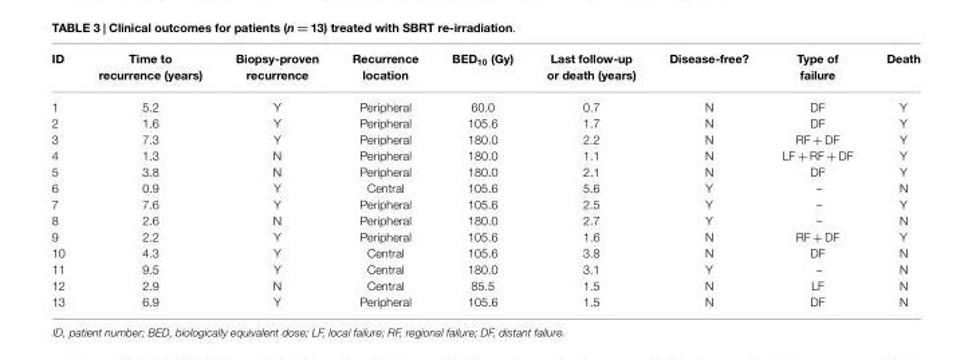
<table><thead><tr><td>ID</td><td>Time to recurrence (years)</td><td>Biopsy-proven recurrence</td><td>Recurrence location</td><td>BED<sub>10</sub> (Gy)</td><td>Last follow-up or death (years)</td><td>Disease-free?</td><td>Type of failure</td><td>Death</td></tr></thead><tbody><tr><td>1</td><td>5.2</td><td>Y</td><td>Peripheral</td><td>60.0</td><td>0.7</td><td>N</td><td>DF</td><td>Y</td></tr><tr><td>2</td><td>1.6</td><td>Y</td><td>Peripheral</td><td>105.6</td><td>1.7</td><td>N</td><td>DF</td><td>Y</td></tr><tr><td>3</td><td>7.3</td><td>Y</td><td>Peripheral</td><td>180.0</td><td>2.2</td><td>N</td><td>RF + DF</td><td>Y</td></tr><tr><td>4</td><td>1.3</td><td>N</td><td>Peripheral</td><td>180.0</td><td>1.1</td><td>N</td><td>LF + RF + DF</td><td>Y</td></tr><tr><td>5</td><td>3.8</td><td>N</td><td>Peripheral</td><td>180.0</td><td>2.1</td><td>N</td><td>DF</td><td>Y</td></tr><tr><td>6</td><td>0.9</td><td>Y</td><td>Central</td><td>105.6</td><td>5.6</td><td>Y</td><td>–</td><td>N</td></tr><tr><td>7</td><td>7.6</td><td>Y</td><td>Peripheral</td><td>105.6</td><td>2.5</td><td>Y</td><td>–</td><td>Y</td></tr><tr><td>8</td><td>2.6</td><td>N</td><td>Peripheral</td><td>180.0</td><td>2.7</td><td>Y</td><td>–</td><td>N</td></tr><tr><td>9</td><td>2.2</td><td>Y</td><td>Peripheral</td><td>105.6</td><td>1.6</td><td>N</td><td>RF + DF</td><td>Y</td></tr><tr><td>10</td><td>4.3</td><td>Y</td><td>Central</td><td>105.6</td><td>3.8</td><td>N</td><td>DF</td><td>N</td></tr><tr><td>11</td><td>9.5</td><td>Y</td><td>Central</td><td>180.0</td><td>3.1</td><td>Y</td><td>–</td><td>N</td></tr><tr><td>12</td><td>2.9</td><td>N</td><td>Central</td><td>85.5</td><td>1.5</td><td>N</td><td>LF</td><td>N</td></tr><tr><td>13</td><td>6.9</td><td>Y</td><td>Peripheral</td><td>105.6</td><td>1.5</td><td>N</td><td>DF</td><td>N</td></tr></tbody></table>